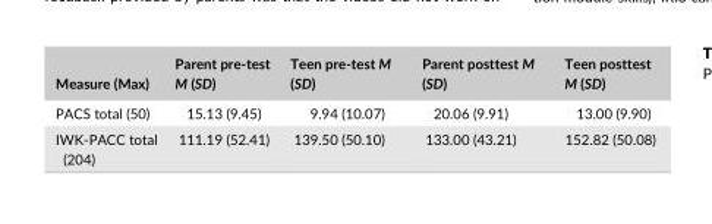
<table><thead><tr><td>Measure (Max)</td><td>Parent pre- test M (SD)</td><td>Teen pre- test M (SD)</td><td>Parent posttest M (SD)</td><td>Teen posttest M (SD)</td></tr></thead><tbody><tr><td>PACS total (50)</td><td>15.13 (9.45)</td><td>9.94 (10.07)</td><td>20.06 (9.91)</td><td>13.00 (9.90)</td></tr><tr><td>IWK- PACC total (204)</td><td>111.19 (52.41)</td><td>139.50 (50.10)</td><td>133.00 (43.21)</td><td>152.82 (50.08)</td></tr></tbody></table>